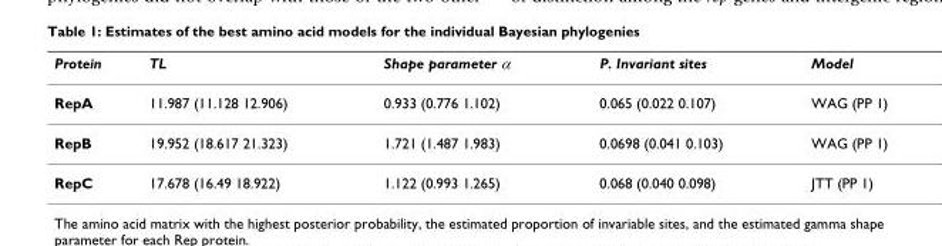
<table><thead><tr><td>Protein</td><td>TL</td><td>Shape parameter α</td><td>P. Invariant sites</td><td>Model</td></tr></thead><tbody><tr><td>RepA</td><td>11.987 (11.128 12.906)</td><td>0.933 (0.776 1.102)</td><td>0.065 (0.022 0.107)</td><td>WAG (PP 1)</td></tr><tr><td>RepB</td><td>19.952 (18.617 21.323)</td><td>1.721 (1.487 1.983)</td><td>0.0698 (0.041 0.103)</td><td>WAG (PP 1)</td></tr><tr><td>RepC</td><td>17.678 (16.49 18.922)</td><td>1.122 (0.993 1.265)</td><td>0.068 (0.040 0.098)</td><td>JTT (PP 1)</td></tr></tbody></table>